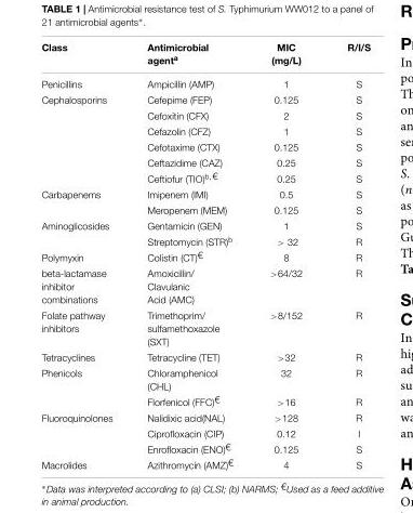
<table><thead><tr><td>Class</td><td>Antimicrobial agent<sup>a</sup></td><td>MIC (mg/L)</td><td>R/I/S</td></tr></thead><tbody><tr><td>Penicillins</td><td>Ampicillin (AMP)</td><td>1</td><td>S</td></tr><tr><td rowspan="6">Cephalosporins</td><td>Cefepime (FEP)</td><td>0.125</td><td>S</td></tr><tr><td>Cefoxitin (CFX)</td><td>2</td><td>S</td></tr><tr><td>Cefazolin (CFZ)</td><td>1</td><td>S</td></tr><tr><td>Cefotaxime (CTX)</td><td>0.125</td><td>S</td></tr><tr><td>Ceftazidime (CAZ)</td><td>0.25</td><td>S</td></tr><tr><td>Ceftiofur (TIO)<sup>b</sup>,€</td><td>0.25</td><td>S</td></tr><tr><td rowspan="2">Carbapenems</td><td>Imipenem (IMI)</td><td>0.5</td><td>S</td></tr><tr><td>Meropenem (MEM)</td><td>0.125</td><td>S</td></tr><tr><td rowspan="2">Aminoglicosides</td><td>Gentamicin (GEN)</td><td>1</td><td>S</td></tr><tr><td>Streptomycin (STR)<sup>b</sup></td><td>&gt; 32</td><td>R</td></tr><tr><td>Polymyxin</td><td>Colistin (CT)€</td><td>8</td><td>R</td></tr><tr><td>beta-lactamase inhibitor combinations</td><td>Amoxicillin/ Clavulanic Acid (AMC)</td><td>&gt;64/32</td><td>R</td></tr><tr><td>Folate pathway inhibitors</td><td>Trimethoprim/ sulfamethoxazole (SXT)</td><td>&gt;8/152</td><td>R</td></tr><tr><td>Tetracyclines</td><td>Tetracycline (TET)</td><td>&gt;32</td><td>R</td></tr><tr><td rowspan="2">Phenicols</td><td>Chloramphenicol (CHL)</td><td>32</td><td>R</td></tr><tr><td>Florfenicol (FFC)€</td><td>&gt;16</td><td>R</td></tr><tr><td rowspan="3">Fluoroquinolones</td><td>Nalidixic acid(NAL)</td><td>&gt;128</td><td>R</td></tr><tr><td>Ciprofloxacin (CIP)</td><td>0.12</td><td>I</td></tr><tr><td>Enrofloxacin (ENO)€</td><td>0.125</td><td>S</td></tr><tr><td>Macrolides</td><td>Azithromycin (AMZ)€</td><td>4</td><td>S</td></tr></tbody></table>